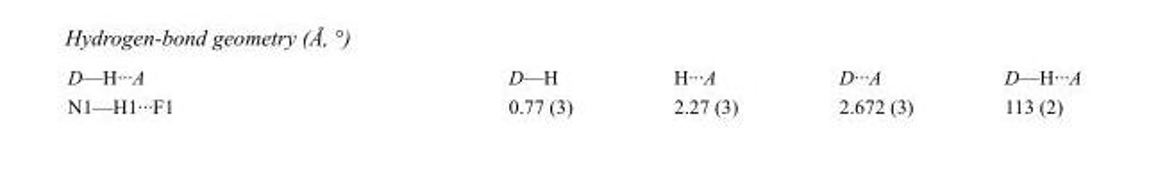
<table><tbody><tr><td>D—H···A</td><td>D—H</td><td>H···A</td><td>D···A</td><td>D—H···A</td></tr><tr><td>N1—H1···F1</td><td>0.77 (3)</td><td>2.27 (3)</td><td>2.672 (3)</td><td>113 (2)</td></tr></tbody></table>